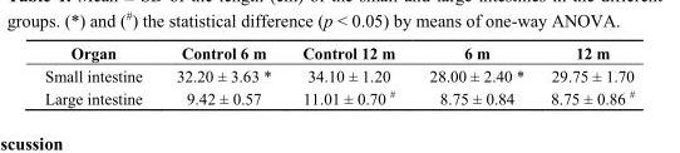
<table><thead><tr><td>Organ</td><td>Control 6 m</td><td>Control 12 m</td><td>6 m</td><td>12 m</td></tr></thead><tbody><tr><td>Small intestine</td><td>32.20 ± 3.63 *</td><td>34.10 ± 1.20</td><td>28.00 ± 2.40 *</td><td>29.75 ± 1.70</td></tr><tr><td>Large intestine</td><td>9.42 ± 0.57</td><td>11.01 ± 0.70 <sup>#</sup></td><td>8.75 ± 0.84</td><td>8.75 ± 0.86 <sup>#</sup></td></tr></tbody></table>